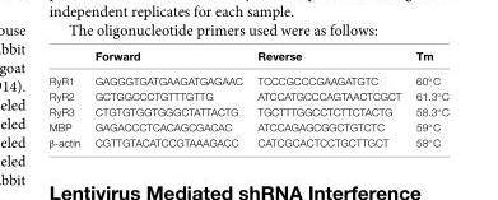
<table><thead><tr><td></td><td>Forward</td><td>Reverse</td><td>Tm</td></tr></thead><tbody><tr><td>RyR1</td><td>GAGGGTGATGAAGATGAGAAC</td><td>TCCCGCCCGAAGATGTC</td><td>60◦C</td></tr><tr><td>RyR2</td><td>GCTGGCCCTGTTTGTTG</td><td>ATCCATGCCCAGTAACTCGCT</td><td>61.3◦C</td></tr><tr><td>RyR3</td><td>CTGTGTGGTGGGCTATTACTG</td><td>TGCTTTGGCCTCTTCTACTG</td><td>58.3◦C</td></tr><tr><td>MBP</td><td>GAGACCCTCACAGCGACAC</td><td>ATCCAGAGCGGCTGTCTC</td><td>59◦C</td></tr><tr><td>β-actin</td><td>CGTTGTACATCCGTAAAGACC</td><td>CATCGCACTCCTGCTTGCT</td><td>58◦C</td></tr></tbody></table>